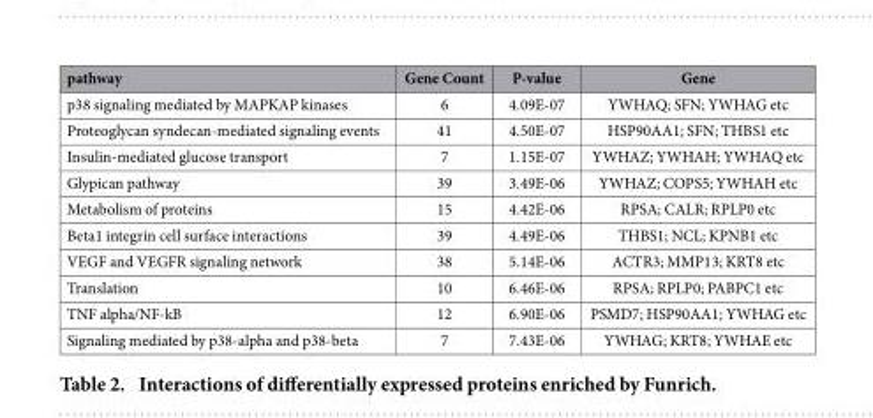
<table><thead><tr><td>pathway</td><td>Gene Count</td><td>P-value</td><td>Gene</td></tr></thead><tbody><tr><td>p38 signaling mediated by MAPKAP kinases</td><td>6</td><td>4.09E-07</td><td>YWHAQ; SFN; YWHAG etc</td></tr><tr><td>Proteoglycan syndecan-mediated signaling events</td><td>41</td><td>4.50E-07</td><td>HSP90AA1; SFN; THBS1 etc</td></tr><tr><td>Insulin-mediated glucose transport</td><td>7</td><td>1.15E-07</td><td>YWHAZ; YWHAH; YWHAQ etc</td></tr><tr><td>Glypican pathway</td><td>39</td><td>3.49E-06</td><td>YWHAZ; COPS5; YWHAH etc</td></tr><tr><td>Metabolism of proteins</td><td>15</td><td>4.42E-06</td><td>RPSA; CALR; RPLP0 etc</td></tr><tr><td>Beta1 integrin cell surface interactions</td><td>39</td><td>4.49E-06</td><td>THBS1; NCL; KPNB1 etc</td></tr><tr><td>VEGF and VEGFR signaling network</td><td>38</td><td>5.14E-06</td><td>ACTR3; MMP13; KRT8 etc</td></tr><tr><td>Translation</td><td>10</td><td>6.46E-06</td><td>RPSA; RPLP0; PABPC1 etc</td></tr><tr><td>TNF alpha/NF-kB</td><td>12</td><td>6.90E-06</td><td>PSMD7; HSP90AA1; YWHAG etc</td></tr><tr><td>Signaling mediated by p38-alpha and p38-beta</td><td>7</td><td>7.43E-06</td><td>YWHAG; KRT8; YWHAE etc</td></tr></tbody></table>